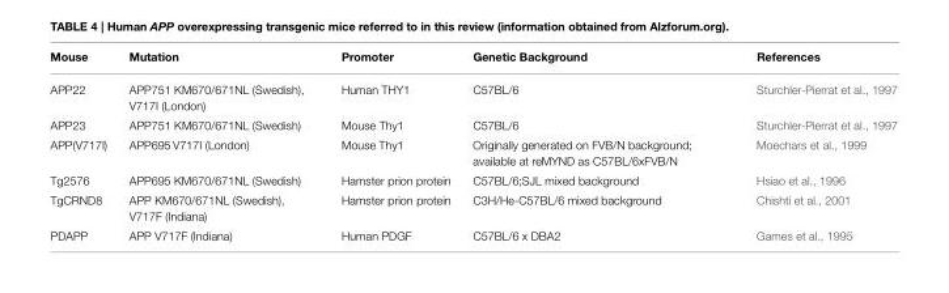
<table><thead><tr><td>Mouse</td><td>Mutation</td><td>Promoter</td><td>Genetic Background</td><td>References</td></tr></thead><tbody><tr><td>APP22</td><td>APP751 KM670/671NL (Swedish), V717I (London)</td><td>Human THY1</td><td>C57BL/6</td><td>Sturchler-Pierrat et al., 1997</td></tr><tr><td>APP23</td><td>APP751 KM670/671NL (Swedish)</td><td>Mouse Thy1</td><td>C57BL/6</td><td>Sturchler-Pierrat et al., 1997</td></tr><tr><td>APP(V717I)</td><td>APP695 V717I (London)</td><td>Mouse Thy1</td><td>Originally generated on FVB/N background; available at reMYND as C57BL/6xFVB/N</td><td>Moechars et al., 1999</td></tr><tr><td>Tg2576</td><td>APP695 KM670/671NL (Swedish)</td><td>Hamster prion protein</td><td>C57BL/6;SJL mixed background</td><td>Hsiao et al., 1996</td></tr><tr><td>TgCRND8</td><td>APP KM670/671NL (Swedish), V717F (Indiana)</td><td>Hamster prion protein</td><td>C3H/He-C57BL/6 mixed background</td><td>Chishti et al., 2001</td></tr><tr><td>PDAPP</td><td>APP V717F (Indiana)</td><td>Human PDGF</td><td>C57BL/6 x DBA2</td><td>Games et al., 1995</td></tr></tbody></table>